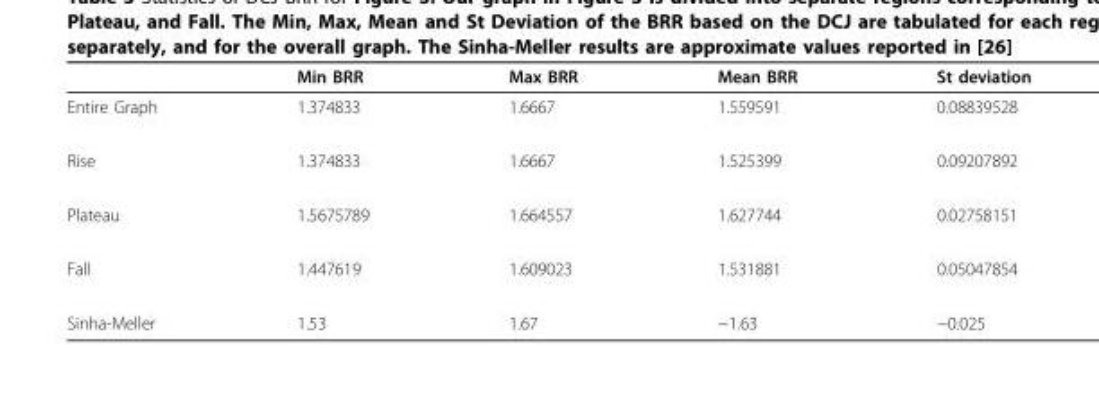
<table><thead><tr><td></td><td>Min BRR</td><td>Max BRR</td><td>Mean BRR</td><td>St deviation</td></tr></thead><tbody><tr><td>Entire Graph</td><td>1.374833</td><td>1.6667</td><td>1.559591</td><td>0.08839528</td></tr><tr><td>Rise</td><td>1.374833</td><td>1.6667</td><td>1.525399</td><td>0.09207892</td></tr><tr><td>Plateau</td><td>1.5675789</td><td>1.664557</td><td>1.627744</td><td>0.02758151</td></tr><tr><td>Fall</td><td>1.447619</td><td>1.609023</td><td>1.531881</td><td>0.05047854</td></tr><tr><td>Sinha-Meller</td><td>1.53</td><td>1.67</td><td>~1.63</td><td>~0.025</td></tr></tbody></table>